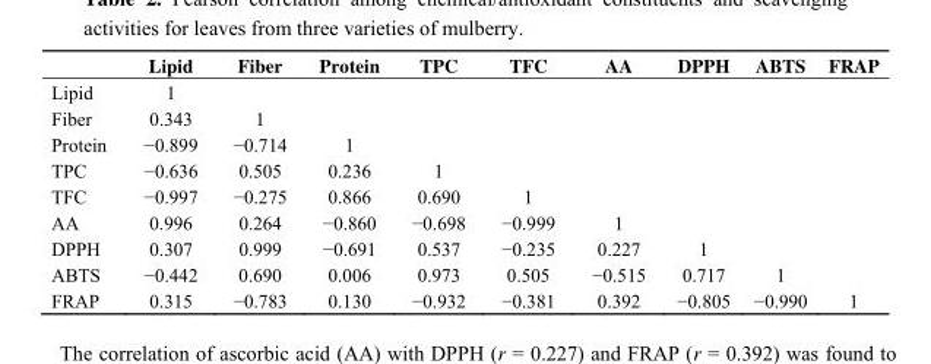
<table><thead><tr><td></td><td>Lipid</td><td>Fiber</td><td>Protein</td><td>TPC</td><td>TFC</td><td>AA</td><td>DPPH</td><td>ABTS</td><td>FRAP</td></tr></thead><tbody><tr><td>Lipid</td><td>1</td><td></td><td></td><td></td><td></td><td></td><td></td><td></td><td></td></tr><tr><td>Fiber</td><td>0.343</td><td>1</td><td></td><td></td><td></td><td></td><td></td><td></td><td></td></tr><tr><td>Protein</td><td>−0.899</td><td>−0.714</td><td>1</td><td></td><td></td><td></td><td></td><td></td><td></td></tr><tr><td>TPC</td><td>−0.636</td><td>0.505</td><td>0.236</td><td>1</td><td></td><td></td><td></td><td></td><td></td></tr><tr><td>TFC</td><td>−0.997</td><td>−0.275</td><td>0.866</td><td>0.690</td><td>1</td><td></td><td></td><td></td><td></td></tr><tr><td>AA</td><td>0.996</td><td>0.264</td><td>−0.860</td><td>−0.698</td><td>−0.999</td><td>1</td><td></td><td></td><td></td></tr><tr><td>DPPH</td><td>0.307</td><td>0.999</td><td>−0.691</td><td>0.537</td><td>−0.235</td><td>0.227</td><td>1</td><td></td><td></td></tr><tr><td>ABTS</td><td>−0.442</td><td>0.690</td><td>0.006</td><td>0.973</td><td>0.505</td><td>−0.515</td><td>0.717</td><td>1</td><td></td></tr><tr><td>FRAP</td><td>0.315</td><td>−0.783</td><td>0.130</td><td>−0.932</td><td>−0.381</td><td>0.392</td><td>−0.805</td><td>−0.990</td><td>1</td></tr></tbody></table>